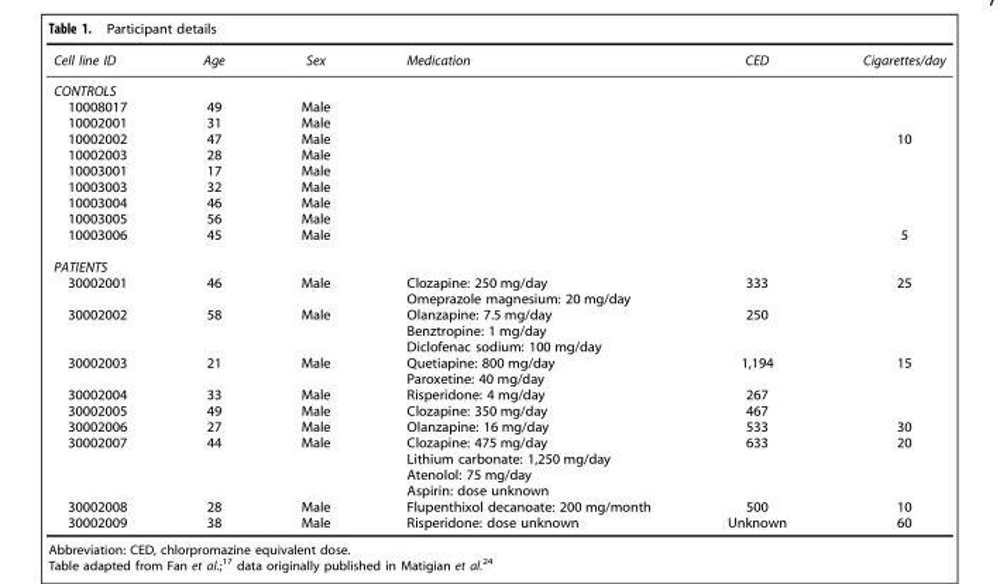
<table><thead><tr><td>Cell line ID</td><td>Age</td><td>Sex</td><td>Medication</td><td>CED</td><td>Cigarettes/day</td></tr></thead><tbody><tr><td colspan="6">CONTROLS</td></tr><tr><td>10008017</td><td>49</td><td>Male</td><td></td><td></td><td></td></tr><tr><td>10002001</td><td>31</td><td>Male</td><td></td><td></td><td></td></tr><tr><td>10002002</td><td>47</td><td>Male</td><td></td><td></td><td>10</td></tr><tr><td>10002003</td><td>28</td><td>Male</td><td></td><td></td><td></td></tr><tr><td>10003001</td><td>17</td><td>Male</td><td></td><td></td><td></td></tr><tr><td>10003003</td><td>32</td><td>Male</td><td></td><td></td><td></td></tr><tr><td>10003004</td><td>46</td><td>Male</td><td></td><td></td><td></td></tr><tr><td>10003005</td><td>56</td><td>Male</td><td></td><td></td><td></td></tr><tr><td>10003006</td><td>45</td><td>Male</td><td></td><td></td><td>5</td></tr><tr><td colspan="6">PATIENTS</td></tr><tr><td rowspan="2">30002001</td><td>46</td><td>Male</td><td>Clozapine: 250 mg/day</td><td>333</td><td>25</td></tr><tr><td></td><td></td><td>Omeprazole magnesium: 20 mg/day</td><td></td><td></td></tr><tr><td rowspan="3">30002002</td><td>58</td><td>Male</td><td>Olanzapine: 7.5 mg/day</td><td>250</td><td></td></tr><tr><td></td><td></td><td>Benztropine: 1 mg/day</td><td></td><td></td></tr><tr><td></td><td></td><td>Diclofenac sodium: 100 mg/day</td><td></td><td></td></tr><tr><td rowspan="2">30002003</td><td>21</td><td>Male</td><td>Quetiapine: 800 mg/day</td><td>1,194</td><td>15</td></tr><tr><td></td><td></td><td>Paroxetine: 40 mg/day</td><td></td><td></td></tr><tr><td>30002004</td><td>33</td><td>Male</td><td>Risperidone: 4 mg/day</td><td>267</td><td></td></tr><tr><td>30002005</td><td>49</td><td>Male</td><td>Clozapine: 350 mg/day</td><td>467</td><td></td></tr><tr><td>30002006</td><td>27</td><td>Male</td><td>Olanzapine: 16 mg/day</td><td>533</td><td>30</td></tr><tr><td rowspan="4">30002007</td><td>44</td><td>Male</td><td>Clozapine: 475 mg/day</td><td>633</td><td>20</td></tr><tr><td></td><td></td><td>Lithium carbonate: 1,250 mg/day</td><td></td><td></td></tr><tr><td></td><td></td><td>Atenolol: 75 mg/day</td><td></td><td></td></tr><tr><td></td><td></td><td>Aspirin: dose unknown</td><td></td><td></td></tr><tr><td>30002008</td><td>28</td><td>Male</td><td>Flupenthixol decanoate: 200 mg/month</td><td>500</td><td>10</td></tr><tr><td>30002009</td><td>38</td><td>Male</td><td>Risperidone: dose unknown</td><td>Unknown</td><td>60</td></tr></tbody></table>